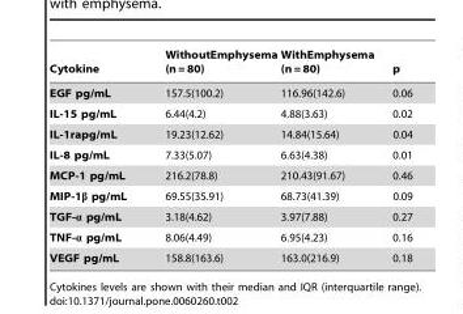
<table><thead><tr><td>Cytokine</td><td>WithoutEmphysema (n = 80)</td><td>WithEmphysema (n = 80)</td><td>p</td></tr></thead><tbody><tr><td>EGF pg/mL</td><td>157.5(100.2)</td><td>116.96(142.6)</td><td>0.06</td></tr><tr><td>IL-15 pg/mL</td><td>6.44(4.2)</td><td>4.88(3.63)</td><td>0.02</td></tr><tr><td>IL-1rapg/mL</td><td>19.23(12.62)</td><td>14.84(15.64)</td><td>0.04</td></tr><tr><td>IL-8 pg/mL</td><td>7.33(5.07)</td><td>6.63(4.38)</td><td>0.01</td></tr><tr><td>MCP-1 pg/mL</td><td>216.2(78.8)</td><td>210.43(91.67)</td><td>0.46</td></tr><tr><td>MIP-1β pg/mL</td><td>69.55(35.91)</td><td>68.73(41.39)</td><td>0.09</td></tr><tr><td>TGF-α pg/mL</td><td>3.18(4.62)</td><td>3.97(7.88)</td><td>0.27</td></tr><tr><td>TNF-α pg/mL</td><td>8.06(4.49)</td><td>6.95(4.23)</td><td>0.16</td></tr><tr><td>VEGF pg/mL</td><td>158.8(163.6)</td><td>163.0(216.9)</td><td>0.18</td></tr></tbody></table>